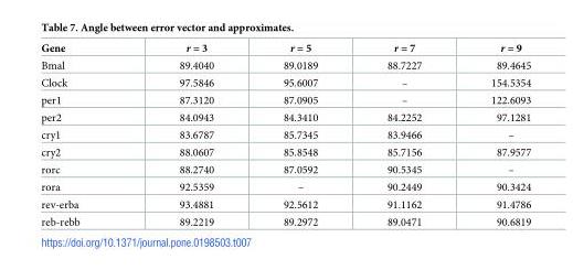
<table><thead><tr><td>Gene</td><td>r = 3</td><td>r = 5</td><td>r = 7</td><td>r = 9</td></tr></thead><tbody><tr><td>Bmal</td><td>89.4040</td><td>89.0189</td><td>88.7227</td><td>89.4645</td></tr><tr><td>Clock</td><td>97.5846</td><td>95.6007</td><td>–</td><td>154.5354</td></tr><tr><td>per1</td><td>87.3120</td><td>87.0905</td><td>–</td><td>122.6093</td></tr><tr><td>per2</td><td>84.0943</td><td>84.3410</td><td>84.2252</td><td>97.1281</td></tr><tr><td>cry1</td><td>83.6787</td><td>85.7345</td><td>83.9466</td><td>–</td></tr><tr><td>cry2</td><td>88.0607</td><td>85.8548</td><td>85.7156</td><td>87.9577</td></tr><tr><td>rorc</td><td>88.2740</td><td>87.0592</td><td>90.5345</td><td>–</td></tr><tr><td>rora</td><td>92.5359</td><td>–</td><td>90.2449</td><td>90.3424</td></tr><tr><td>rev-erba</td><td>93.4881</td><td>92.5612</td><td>91.1162</td><td>91.4786</td></tr><tr><td>reb-rebb</td><td>89.2219</td><td>89.2972</td><td>89.0471</td><td>90.6819</td></tr></tbody></table>